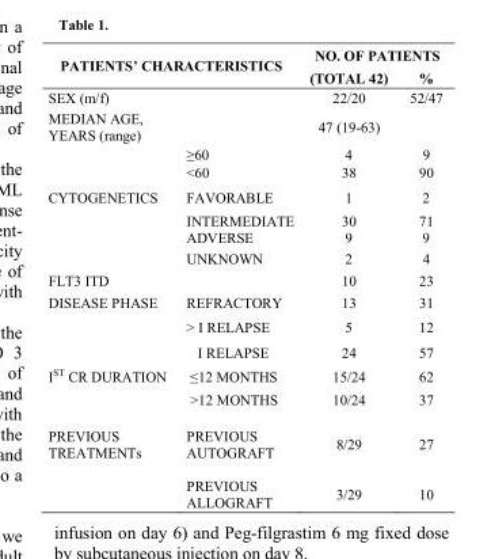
<table><thead><tr><td rowspan="2" colspan="2">PATIENTS’ CHARACTERISTICS</td><td colspan="2">NO. OF PATIENTS</td></tr><tr><td rowspan="2">(TOTAL 42) 22/20</td><td rowspan="2">% 52/47</td></tr><tr><td>SEX (m/f)</td><td></td></tr></thead><tbody><tr><td rowspan="3">MEDIAN AGE, YEARS (range)</td><td></td><td>47 (19-63)</td><td></td></tr><tr><td>≥60</td><td>4</td><td>9</td></tr><tr><td>&lt;60</td><td>38</td><td>90</td></tr><tr><td rowspan="4">CYTOGENETICS</td><td>FAVORABLE</td><td>1</td><td>2</td></tr><tr><td>INTERMEDIATE</td><td>30</td><td>71</td></tr><tr><td>ADVERSE</td><td>9</td><td>9</td></tr><tr><td>UNKNOWN</td><td>2</td><td>4</td></tr><tr><td>FLT3 ITD</td><td></td><td>10</td><td>23</td></tr><tr><td rowspan="3">DISEASE PHASE</td><td>REFRACTORY</td><td>13</td><td>31</td></tr><tr><td>&gt; I RELAPSE</td><td>5</td><td>12</td></tr><tr><td>I RELAPSE</td><td>24</td><td>57</td></tr><tr><td rowspan="2">I<sup>ST</sup> CR DURATION</td><td>≤12 MONTHS</td><td>15/24</td><td>62</td></tr><tr><td>&gt;12 MONTHS</td><td>10/24</td><td>37</td></tr><tr><td rowspan="2">PREVIOUS TREATMENTs</td><td>PREVIOUS AUTOGRAFT</td><td>8/29</td><td>27</td></tr><tr><td>PREVIOUS ALLOGRAFT</td><td>3/29</td><td>10</td></tr></tbody></table>